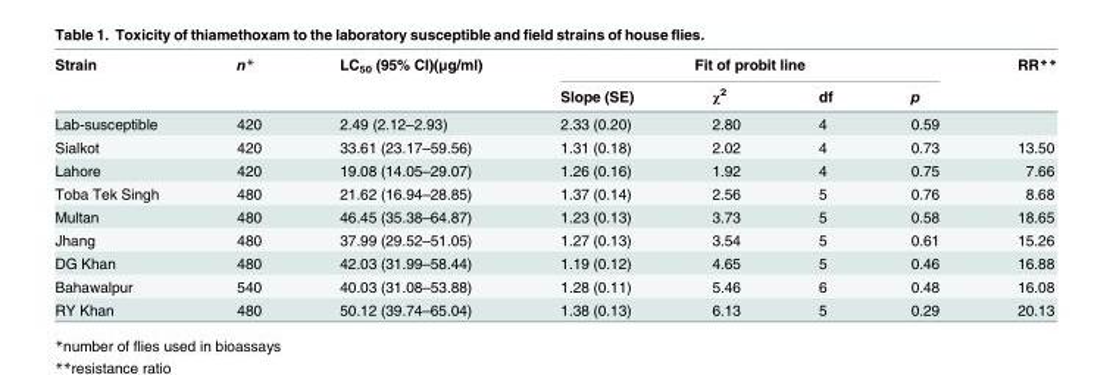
<table><thead><tr><td rowspan="2">Strain</td><td rowspan="2">n*</td><td rowspan="2">LC<sub>50</sub> (95% CI)(μg/ml)</td><td colspan="4">Fit of probit line</td><td rowspan="2">RR**</td></tr><tr><td>Slope (SE)</td><td>χ<sup>2</sup></td><td>df</td><td>p</td></tr></thead><tbody><tr><td>Lab-susceptible</td><td>420</td><td>2.49 (2.12–2.93)</td><td>2.33 (0.20)</td><td>2.80</td><td>4</td><td>0.59</td><td></td></tr><tr><td>Sialkot</td><td>420</td><td>33.61 (23.17–59.56)</td><td>1.31 (0.18)</td><td>2.02</td><td>4</td><td>0.73</td><td>13.50</td></tr><tr><td>Lahore</td><td>420</td><td>19.08 (14.05–29.07)</td><td>1.26 (0.16)</td><td>1.92</td><td>4</td><td>0.75</td><td>7.66</td></tr><tr><td>Toba Tek Singh</td><td>480</td><td>21.62 (16.94–28.85)</td><td>1.37 (0.14)</td><td>2.56</td><td>5</td><td>0.76</td><td>8.68</td></tr><tr><td>Multan</td><td>480</td><td>46.45 (35.38–64.87)</td><td>1.23 (0.13)</td><td>3.73</td><td>5</td><td>0.58</td><td>18.65</td></tr><tr><td>Jhang</td><td>480</td><td>37.99 (29.52–51.05)</td><td>1.27 (0.13)</td><td>3.54</td><td>5</td><td>0.61</td><td>15.26</td></tr><tr><td>DG Khan</td><td>480</td><td>42.03 (31.99–58.44)</td><td>1.19 (0.12)</td><td>4.65</td><td>5</td><td>0.46</td><td>16.88</td></tr><tr><td>Bahawalpur</td><td>540</td><td>40.03 (31.08–53.88)</td><td>1.28 (0.11)</td><td>5.46</td><td>6</td><td>0.48</td><td>16.08</td></tr><tr><td>RY Khan</td><td>480</td><td>50.12 (39.74–65.04)</td><td>1.38 (0.13)</td><td>6.13</td><td>5</td><td>0.29</td><td>20.13</td></tr></tbody></table>